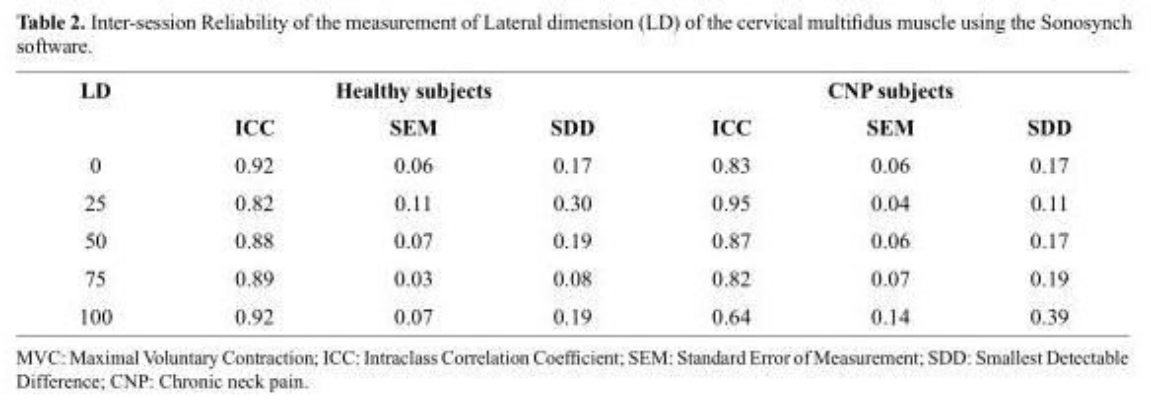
<table><thead><tr><td rowspan="2">LD</td><td rowspan="2">ICC</td><td rowspan="2">Healthy subjects SEM</td><td rowspan="2">SDD</td><td rowspan="2">ICC</td><td rowspan="2">CNP subjects SEM</td><td rowspan="2">SDD</td></tr><tr></tr></thead><tbody><tr><td>0</td><td>0.92</td><td>0.06</td><td>0.17</td><td>0.83</td><td>0.06</td><td>0.17</td></tr><tr><td>25</td><td>0.82</td><td>0.11</td><td>0.30</td><td>0.95</td><td>0.04</td><td>0.11</td></tr><tr><td>50</td><td>0.88</td><td>0.07</td><td>0.19</td><td>0.87</td><td>0.06</td><td>0.17</td></tr><tr><td>75</td><td>0.89</td><td>0.03</td><td>0.08</td><td>0.82</td><td>0.07</td><td>0.19</td></tr><tr><td>100</td><td>0.92</td><td>0.07</td><td>0.19</td><td>0.64</td><td>0.14</td><td>0.39</td></tr></tbody></table>